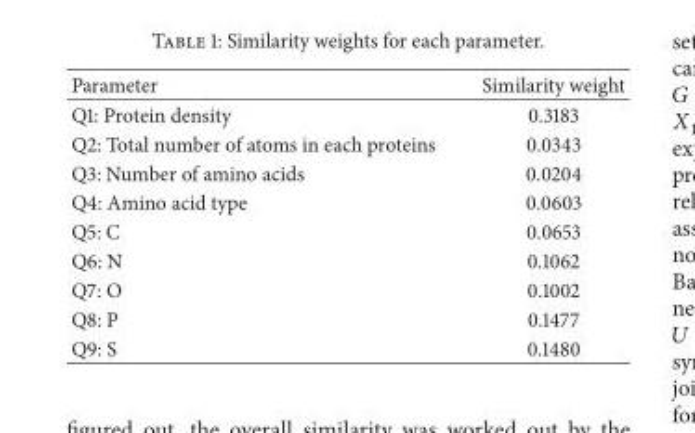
<table><thead><tr><td>Parameter</td><td>Similarity weight</td></tr></thead><tbody><tr><td>Q1: Protein density</td><td>0.3183</td></tr><tr><td>Q2: Total number of atoms in each proteins</td><td>0.0343</td></tr><tr><td>Q3: Number of amino acids</td><td>0.0204</td></tr><tr><td>Q4: Amino acid type</td><td>0.0603</td></tr><tr><td>Q5: C</td><td>0.0653</td></tr><tr><td>Q6: N</td><td>0.1062</td></tr><tr><td>Q7: O</td><td>0.1002</td></tr><tr><td>Q8: P</td><td>0.1477</td></tr><tr><td>Q9: S</td><td>0.1480</td></tr></tbody></table>